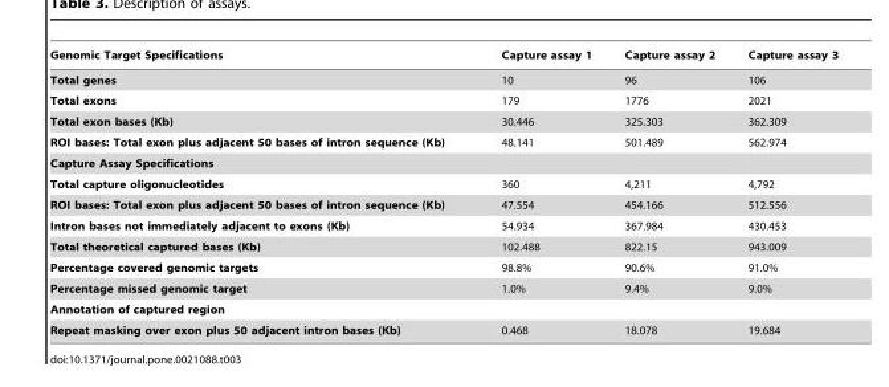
<table><thead><tr><td>Genomic Target Specifications</td><td>Capture assay 1</td><td>Capture assay 2</td><td>Capture assay 3</td></tr></thead><tbody><tr><td>Total genes</td><td>10</td><td>96</td><td>106</td></tr><tr><td>Total exons</td><td>179</td><td>1776</td><td>2021</td></tr><tr><td>Total exon bases (Kb)</td><td>30.446</td><td>325.303</td><td>362.309</td></tr><tr><td>ROI bases: Total exon plus adjacent 50 bases of intron sequence (Kb)</td><td>48.141</td><td>501.489</td><td>562.974</td></tr><tr><td colspan="4">Capture Assay Specifications</td></tr><tr><td>Total capture oligonucleotides</td><td>360</td><td>4,211</td><td>4,792</td></tr><tr><td>ROI bases: Total exon plus adjacent 50 bases of intron sequence (Kb)</td><td>47.554</td><td>454.166</td><td>512.556</td></tr><tr><td>Intron bases not immediately adjacent to exons (Kb)</td><td>54.934</td><td>367.984</td><td>430.453</td></tr><tr><td>Total theoretical captured bases (Kb)</td><td>102.488</td><td>822.15</td><td>943.009</td></tr><tr><td>Percentage covered genomic targets</td><td>98.8%</td><td>90.6%</td><td>91.0%</td></tr><tr><td>Percentage missed genomic target</td><td>1.0%</td><td>9.4%</td><td>9.0%</td></tr><tr><td colspan="4">Annotation of captured region</td></tr><tr><td>Repeat masking over exon plus 50 adjacent intron bases (Kb)</td><td>0.468</td><td>18.078</td><td>19.684</td></tr></tbody></table>